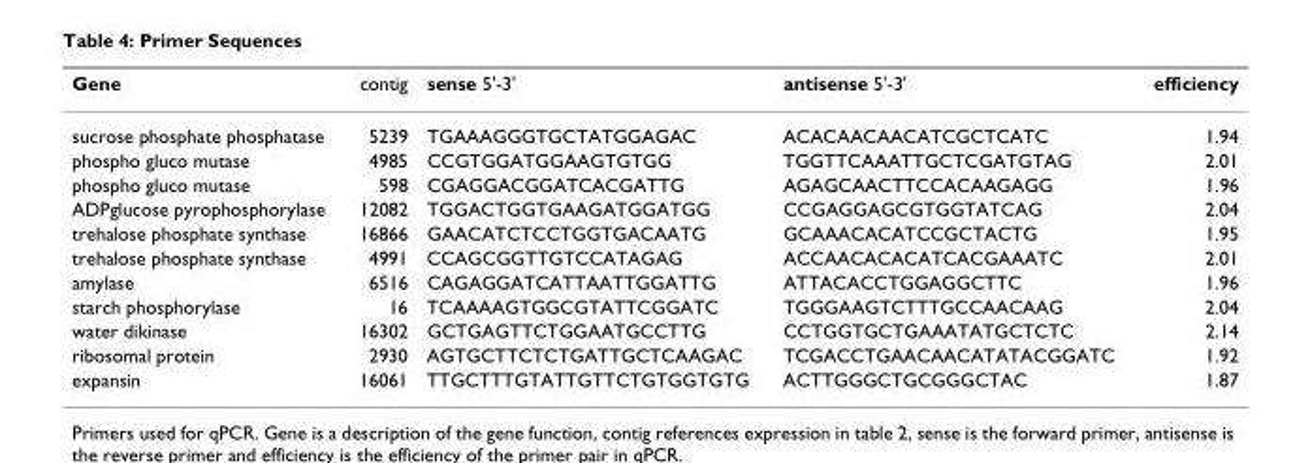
<table><thead><tr><td>Gene</td><td>contig</td><td>sense 5&#x27;-3&#x27;</td><td>antisense 5&#x27;-3&#x27;</td><td>efficiency</td></tr></thead><tbody><tr><td>sucrose phosphate phosphatase</td><td>5239</td><td>TGAAAGGGTGCTATGGAGAC</td><td>ACACAACAACATCGCTCATC</td><td>1.94</td></tr><tr><td>phospho gluco mutase</td><td>4985</td><td>CCGTGGATGGAAGTGTGG</td><td>TGGTTCAAATTGCTCGATGTAG</td><td>2.01</td></tr><tr><td>phospho gluco mutase</td><td>598</td><td>CGAGGACGGATCACGATTG</td><td>AGAGCAACTTCCACAAGAGG</td><td>1.96</td></tr><tr><td>ADPglucose pyrophosphorylase</td><td>12082</td><td>TGGACTGGTGAAGATGGATGG</td><td>CCGAGGAGCGTGGTATCAG</td><td>2.04</td></tr><tr><td>trehalose phosphate synthase</td><td>16866</td><td>GAACATCTCCTGGTGACAATG</td><td>GCAAACACATCCGCTACTG</td><td>1.95</td></tr><tr><td>trehalose phosphate synthase</td><td>4991</td><td>CCAGCGGTTGTCCATAGAG</td><td>ACCAACACACATCACGAAATC</td><td>2.01</td></tr><tr><td>amylase</td><td>6516</td><td>CAGAGGATCATTAATTGGATTG</td><td>ATTACACCTGGAGGCTTC</td><td>1.96</td></tr><tr><td>starch phosphorylase</td><td>16</td><td>TCAAAAGTGGCGTATTCGGATC</td><td>TGGGAAGTCTTTGCCAACAAG</td><td>2.04</td></tr><tr><td>water dikinase</td><td>16302</td><td>GCTGAGTTCTGGAATGCCTTG</td><td>CCTGGTGCTGAAATATGCTCTC</td><td>2.14</td></tr><tr><td>ribosomal protein</td><td>2930</td><td>AGTGCTTCTCTGATTGCTCAAGAC</td><td>TCGACCTGAACAACATATACGGATC</td><td>1.92</td></tr><tr><td>expansin</td><td>16061</td><td>TTGCTTTGTATTGTTCTGTGGTGTG</td><td>ACTTGGGCTGCGGGCTAC</td><td>1.87</td></tr></tbody></table>